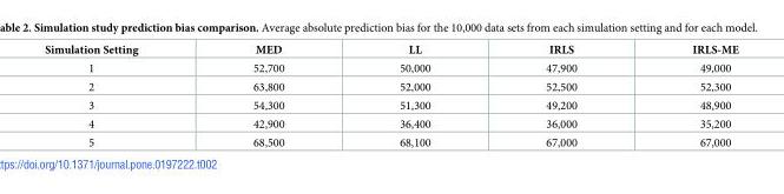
<table><thead><tr><td>Simulation Setting</td><td>MED</td><td>LL</td><td>IRLS</td><td>IRLS-ME</td></tr></thead><tbody><tr><td>1</td><td>52,700</td><td>50,000</td><td>47,900</td><td>49,000</td></tr><tr><td>2</td><td>63,800</td><td>52,000</td><td>52,500</td><td>52,300</td></tr><tr><td>3</td><td>54,300</td><td>51,300</td><td>49,200</td><td>48,900</td></tr><tr><td>4</td><td>42,900</td><td>36,400</td><td>36,000</td><td>35,200</td></tr><tr><td>5</td><td>68,500</td><td>68,100</td><td>67,000</td><td>67,000</td></tr></tbody></table>